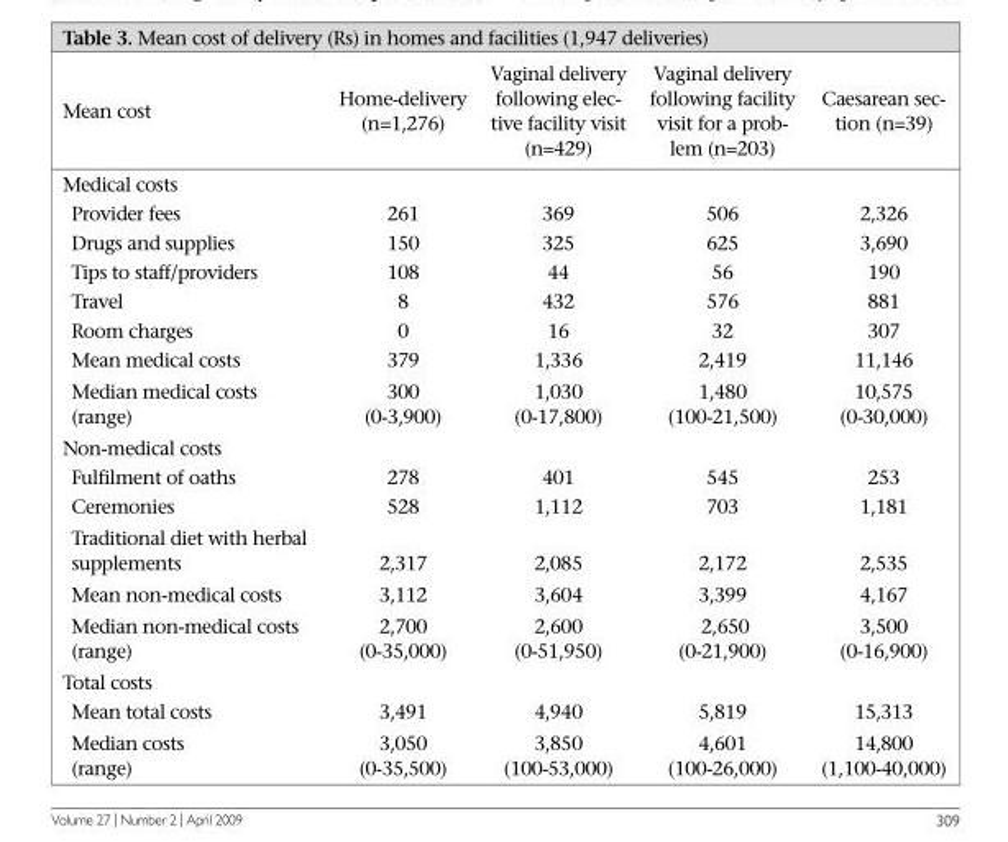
<table><thead><tr><td>Mean cost</td><td>Home-delivery (n=1,276)</td><td>Vaginal delivery following elec- tive facility visit (n=429)</td><td>Vaginal delivery following facility visit for a prob- lem (n=203)</td><td>Caesarean sec- tion (n=39)</td></tr></thead><tbody><tr><td colspan="5">Medical costs</td></tr><tr><td>Provider fees</td><td>261</td><td>369</td><td>506</td><td>2,326</td></tr><tr><td>Drugs and supplies</td><td>150</td><td>325</td><td>625</td><td>3,690</td></tr><tr><td>Tips to staff/providers</td><td>108</td><td>44</td><td>56</td><td>190</td></tr><tr><td>Travel</td><td>8</td><td>432</td><td>576</td><td>881</td></tr><tr><td>Room charges</td><td>0</td><td>16</td><td>32</td><td>307</td></tr><tr><td>Mean medical costs</td><td>379</td><td>1,336</td><td>2,419</td><td>11,146</td></tr><tr><td>Median medical costs</td><td>300</td><td>1,030</td><td>1,480</td><td>10,575</td></tr><tr><td>(range)</td><td>(0-3,900)</td><td>(0-17,800)</td><td>(100-21,500)</td><td>(0-30,000)</td></tr><tr><td colspan="5">Non-medical costs</td></tr><tr><td>Fulfilment of oaths</td><td>278</td><td>401</td><td>545</td><td>253</td></tr><tr><td>Ceremonies</td><td>528</td><td>1,112</td><td>703</td><td>1,181</td></tr><tr><td>Traditional diet with herbal supplements</td><td>2,317</td><td>2,085</td><td>2,172</td><td>2,535</td></tr><tr><td>Mean non-medical costs</td><td>3,112</td><td>3,604</td><td>3,399</td><td>4,167</td></tr><tr><td>Median non-medical costs</td><td>2,700</td><td>2,600</td><td>2,650</td><td>3,500</td></tr><tr><td>(range)</td><td>(0-35,000)</td><td>(0-51,950)</td><td>(0-21,900)</td><td>(0-16,900)</td></tr><tr><td colspan="5">Total costs</td></tr><tr><td>Mean total costs</td><td>3,491</td><td>4,940</td><td>5,819</td><td>15,313</td></tr><tr><td>Median costs</td><td>3,050</td><td>3,850</td><td>4,601</td><td>14,800</td></tr><tr><td>(range)</td><td>(0-35,500)</td><td>(100-53,000)</td><td>(100-26,000)</td><td>(1,100-40,000)</td></tr></tbody></table>